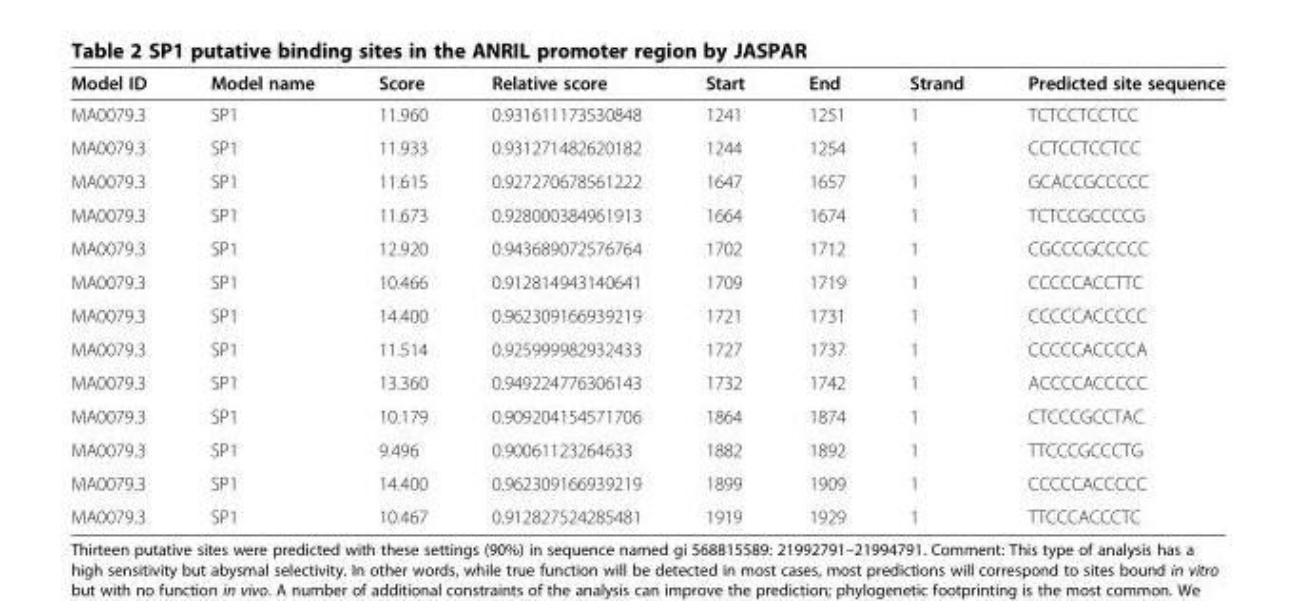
<table><thead><tr><td>Model ID</td><td>Model name</td><td>Score</td><td>Relative score</td><td>Start</td><td>End</td><td>Strand</td><td>Predicted site sequence</td></tr></thead><tbody><tr><td>MA0079.3</td><td>SP1</td><td>11.960</td><td>0.931611173530848</td><td>1241</td><td>1251</td><td>1</td><td>TCTCCTCCTCC</td></tr><tr><td>MA0079.3</td><td>SP1</td><td>11.933</td><td>0.931271482620182</td><td>1244</td><td>1254</td><td>1</td><td>CCTCCTCCTCC</td></tr><tr><td>MA0079.3</td><td>SP1</td><td>11.615</td><td>0.927270678561222</td><td>1647</td><td>1657</td><td>1</td><td>GCACCGCCCCC</td></tr><tr><td>MA0079.3</td><td>SP1</td><td>11.673</td><td>0.928000384961913</td><td>1664</td><td>1674</td><td>1</td><td>TCTCCGCCCCG</td></tr><tr><td>MA0079.3</td><td>SP1</td><td>12.920</td><td>0.943689072576764</td><td>1702</td><td>1712</td><td>1</td><td>CGCCCGCCCCC</td></tr><tr><td>MA0079.3</td><td>SP1</td><td>10.466</td><td>0.912814943140641</td><td>1709</td><td>1719</td><td>1</td><td>CCCCCACCTTC</td></tr><tr><td>MA0079.3</td><td>SP1</td><td>14.400</td><td>0.962309166939219</td><td>1721</td><td>1731</td><td>1</td><td>CCCCCACCCCC</td></tr><tr><td>MA0079.3</td><td>SP1</td><td>11.514</td><td>0.925999982932433</td><td>1727</td><td>1737</td><td>1</td><td>CCCCCACCCCA</td></tr><tr><td>MA0079.3</td><td>SP1</td><td>13.360</td><td>0.949224776306143</td><td>1732</td><td>1742</td><td>1</td><td>ACCCCACCCCC</td></tr><tr><td>MA0079.3</td><td>SP1</td><td>10.179</td><td>0.909204154571706</td><td>1864</td><td>1874</td><td>1</td><td>CTCCCGCCTAC</td></tr><tr><td>MA0079.3</td><td>SP1</td><td>9.496</td><td>0.90061123264633</td><td>1882</td><td>1892</td><td>1</td><td>TTCCCGCCCTG</td></tr><tr><td>MA0079.3</td><td>SP1</td><td>14.400</td><td>0.962309166939219</td><td>1899</td><td>1909</td><td>1</td><td>CCCCCACCCCC</td></tr><tr><td>MA0079.3</td><td>SP1</td><td>10.467</td><td>0.912827524285481</td><td>1919</td><td>1929</td><td>1</td><td>TTCCCACCCTC</td></tr></tbody></table>